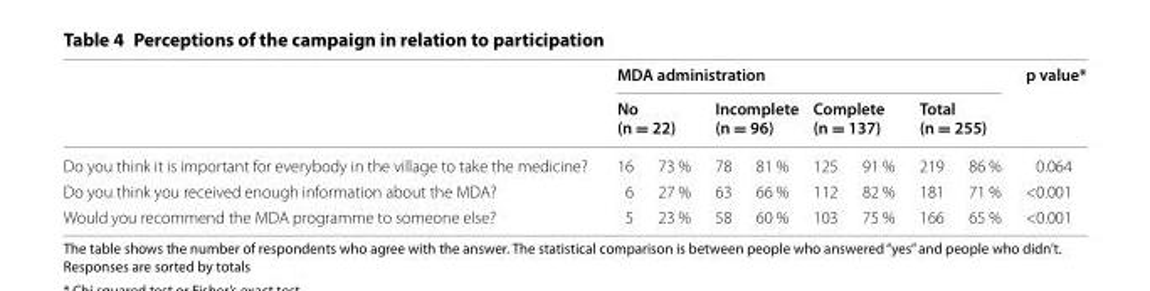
<table><thead><tr><td rowspan="3">Do you think it is important for everybody in the village to take the medicine?</td><td colspan="8">MDA administration</td><td rowspan="3">p value* 0.064</td></tr><tr><td colspan="2">No (n = 22)</td><td colspan="2">Incomplete (n = 96)</td><td colspan="2">Complete (n = 137)</td><td colspan="2">Total (n = 255)</td></tr><tr><td>16</td><td>73 %</td><td>78</td><td>81 %</td><td>125</td><td>91 %</td><td>219</td><td>86 %</td></tr></thead><tbody><tr><td>Do you think you received enough information about the MDA?</td><td>6</td><td>27 %</td><td>63</td><td>66 %</td><td>112</td><td>82 %</td><td>181</td><td>71 %</td><td>&lt;0.001</td></tr><tr><td>Would you recommend the MDA programme to someone else?</td><td>5</td><td>23 %</td><td>58</td><td>60 %</td><td>103</td><td>75 %</td><td>166</td><td>65 %</td><td>&lt;0.001</td></tr></tbody></table>